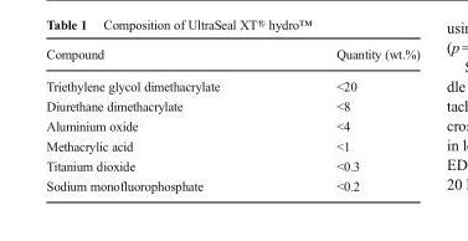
<table><thead><tr><td>Compound</td><td>Quantity (wt.%)</td></tr></thead><tbody><tr><td>Triethylene glycol dimethacrylate</td><td>&lt;20</td></tr><tr><td>Diurethane dimethacrylate</td><td>&lt;8</td></tr><tr><td>Aluminium oxide</td><td>&lt;4</td></tr><tr><td>Methacrylic acid</td><td>&lt;1</td></tr><tr><td>Titanium dioxide</td><td>&lt;0.3</td></tr><tr><td>Sodium monofluorophosphate</td><td>&lt;0.2</td></tr></tbody></table>